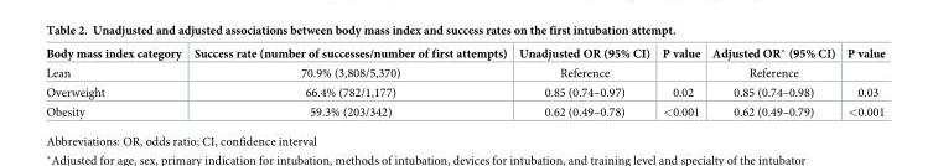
<table><thead><tr><td>Body mass index category</td><td>Success rate (number of successes/number of first attempts)</td><td>Unadjusted OR (95% CI)</td><td>P value</td><td>Adjusted OR* (95% CI)</td><td>P value</td></tr></thead><tbody><tr><td>Lean</td><td>70.9% (3,808/5,370)</td><td>Reference</td><td></td><td>Reference</td><td></td></tr><tr><td>Overweight</td><td>66.4% (782/1,177)</td><td>0.85 (0.74–0.97)</td><td>0.02</td><td>0.85 (0.74–0.98)</td><td>0.03</td></tr><tr><td>Obesity</td><td>59.3% (203/342)</td><td>0.62 (0.49–0.78)</td><td>&lt;0.001</td><td>0.62 (0.49–0.79)</td><td>&lt;0.001</td></tr></tbody></table>